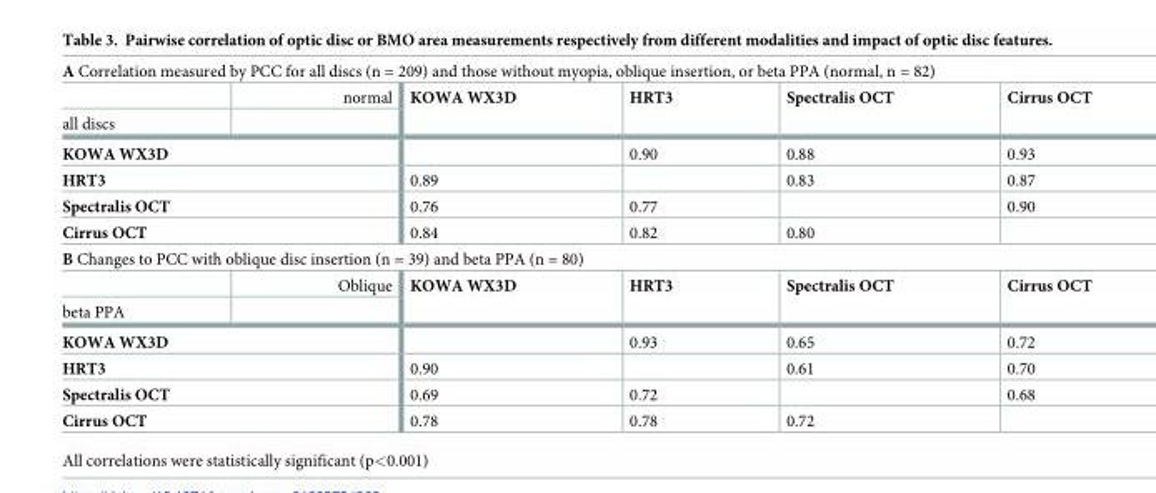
<table><tbody><tr><td colspan="6">A Correlation measured by PCC for all discs (n = 209) and those without myopia, oblique insertion, or beta PPA (normal, n = 82)</td></tr><tr><td></td><td>normal</td><td rowspan="2">KOWA WX3D</td><td rowspan="2">HRT3</td><td rowspan="2">Spectralis OCT</td><td rowspan="2">Cirrus OCT</td></tr><tr><td colspan="2">all discs</td></tr><tr><td colspan="2">KOWA WX3D</td><td></td><td>0.90</td><td>0.88</td><td>0.93</td></tr><tr><td colspan="2">HRT3</td><td>0.89</td><td></td><td>0.83</td><td>0.87</td></tr><tr><td colspan="2">Spectralis OCT</td><td>0.76</td><td>0.77</td><td></td><td>0.90</td></tr><tr><td colspan="2">Cirrus OCT</td><td>0.84</td><td>0.82</td><td>0.80</td><td></td></tr><tr><td colspan="6">B Changes to PCC with oblique disc insertion (n = 39) and beta PPA (n = 80)</td></tr><tr><td></td><td>Oblique</td><td rowspan="2">KOWA WX3D</td><td rowspan="2">HRT3</td><td rowspan="2">Spectralis OCT</td><td rowspan="2">Cirrus OCT</td></tr><tr><td colspan="2">beta PPA</td></tr><tr><td colspan="2">KOWA WX3D</td><td></td><td>0.93</td><td>0.65</td><td>0.72</td></tr><tr><td colspan="2">HRT3</td><td>0.90</td><td></td><td>0.61</td><td>0.70</td></tr><tr><td colspan="2">Spectralis OCT</td><td>0.69</td><td>0.72</td><td></td><td>0.68</td></tr><tr><td colspan="2">Cirrus OCT</td><td>0.78</td><td>0.78</td><td>0.72</td><td></td></tr></tbody></table>